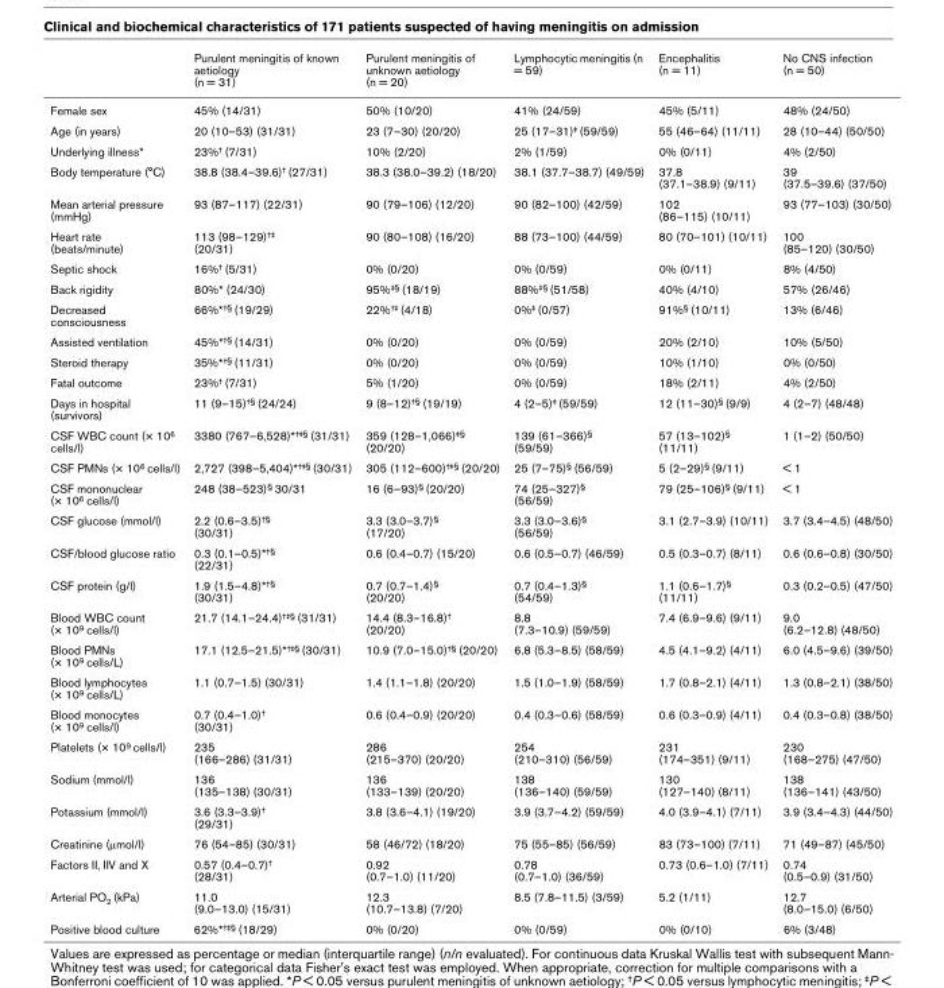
<table><thead><tr><td></td><td>Purulent meningitis of known aetiology (n = 31)</td><td>Purulent meningitis of unknown aetiology (n = 20)</td><td>Lymphocytic meningitis (n = 59)</td><td>Encephalitis (n = 11)</td><td>No CNS infection (n = 50)</td></tr></thead><tbody><tr><td>Female sex</td><td>45% (14/31)</td><td>50% (10/20)</td><td>41% (24/59)</td><td>45% (5/11)</td><td>48% (24/50)</td></tr><tr><td>Age (in years)</td><td>20 (10–53) (31/31)</td><td>23 (7–30) (20/20)</td><td>25 (17–31)<sup>‡</sup> (59/59)</td><td>55 (46–64) (11/11)</td><td>28 (10–44) (50/50)</td></tr><tr><td>Underlying illness*</td><td>23%<sup>†</sup> (7/31)</td><td>10% (2/20)</td><td>2% (1/59)</td><td>0% (0/11)</td><td>4% (2/50)</td></tr><tr><td>Body temperature (°C)</td><td>38.8 (38.4–39.6)<sup>†</sup> (27/31)</td><td>38.3 (38.0–39.2) (18/20)</td><td>38.1 (37.7–38.7) (49/59)</td><td>37.8 (37.1–38.9) (9/11)</td><td>39 (37.5–39.6) (37/50)</td></tr><tr><td>Mean arterial pressure (mmHg)</td><td>93 (87–117) (22/31)</td><td>90 (79–106) (12/20)</td><td>90 (82–100) (42/59)</td><td>102 (86–115) (10/11)</td><td>93 (77–103) (30/50)</td></tr><tr><td>Heart rate (beats/minute)</td><td>113 (98–129)<sup>†‡</sup> (20/31)</td><td>90 (80–108) (16/20)</td><td>88 (73–100) (44/59)</td><td>80 (70–101) (10/11)</td><td>100 (85–120) (30/50)</td></tr><tr><td>Septic shock</td><td>16%<sup>†</sup> (5/31)</td><td>0% (0/20)</td><td>0% (0/59)</td><td>0% (0/11)</td><td>8% (4/50)</td></tr><tr><td>Back rigidity</td><td>80%* (24/30)</td><td>95%<sup>‡§</sup> (18/19)</td><td>88%<sup>‡§</sup> (51/58)</td><td>40% (4/10)</td><td>57% (26/46)</td></tr><tr><td>Decreased consciousness</td><td>66%*<sup>†§</sup> (19/29)</td><td>22%<sup>†‡</sup> (4/18)</td><td>0%<sup>‡</sup> (0/57)</td><td>91%<sup>§</sup> (10/11)</td><td>13% (6/46)</td></tr><tr><td>Assisted ventilation</td><td>45%*<sup>†§</sup> (14/31)</td><td>0% (0/20)</td><td>0% (0/59)</td><td>20% (2/10)</td><td>10% (5/50)</td></tr><tr><td>Steroid therapy</td><td>35%*<sup>†§</sup> (11/31)</td><td>0% (0/20)</td><td>0% (0/59)</td><td>10% (1/10)</td><td>0% (0/50)</td></tr><tr><td>Fatal outcome</td><td>23%<sup>†</sup> (7/31)</td><td>5% (1/20)</td><td>0% (0/59)</td><td>18% (2/11)</td><td>4% (2/50)</td></tr><tr><td>Days in hospital (survivors)</td><td>11 (9–15)<sup>†§</sup> (24/24)</td><td>9 (8–12)<sup>†§</sup> (19/19)</td><td>4 (2–5)<sup>‡</sup> (59/59)</td><td>12 (11–30)<sup>§</sup> (9/9)</td><td>4 (2–7) (48/48)</td></tr><tr><td>CSF WBC count (× 10<sup>6</sup> cells/l)</td><td>3380 (767–6,528)*<sup>†‡§</sup> (31/31)</td><td>359 (128–1,066)<sup>‡§</sup> (20/20)</td><td>139 (61–366)<sup>§</sup> (59/59)</td><td>57 (13–102)<sup>§</sup> (11/11)</td><td>1 (1–2) (50/50)</td></tr><tr><td>CSF PMNs (× 10<sup>6</sup> cells/l)</td><td>2,727 (398–5,404)*<sup>†‡§</sup> (30/31)</td><td>305 (112–600)<sup>†‡§</sup> (20/20)</td><td>25 (7–75)<sup>§</sup> (56/59)</td><td>5 (2–29)<sup>§</sup> (9/11)</td><td>&lt; 1</td></tr><tr><td>CSF mononuclear (× 10<sup>6</sup> cells/l)</td><td>248 (38–523)<sup>§</sup> 30/31</td><td>16 (6–93)<sup>§</sup> (20/20)</td><td>74 (25–327)<sup>§</sup> (56/59)</td><td>79 (25–106)<sup>§</sup> (9/11)</td><td>&lt; 1</td></tr><tr><td>CSF glucose (mmol/l)</td><td>2.2 (0.6–3.5)<sup>†§</sup> (30/31)</td><td>3.3 (3.0–3.7)<sup>§</sup> (17/20)</td><td>3.3 (3.0–3.6)<sup>§</sup> (56/59)</td><td>3.1 (2.7–3.9) (10/11)</td><td>3.7 (3.4–4.5) (48/50)</td></tr><tr><td>CSF/blood glucose ratio</td><td>0.3 (0.1–0.5)*<sup>†§</sup> (22/31)</td><td>0.6 (0.4–0.7) (15/20)</td><td>0.6 (0.5–0.7) (46/59)</td><td>0.5 (0.3–0.7) (8/11)</td><td>0.6 (0.6–0.8) (30/50)</td></tr><tr><td>CSF protein (g/l)</td><td>1.9 (1.5–4.8)*<sup>†§</sup> (30/31)</td><td>0.7 (0.7–1.4)<sup>§</sup> (20/20)</td><td>0.7 (0.4–1.3)<sup>§</sup> (54/59)</td><td>1.1 (0.6–1.7)<sup>§</sup> (11/11)</td><td>0.3 (0.2–0.5) (47/50)</td></tr><tr><td>Blood WBC count (× 10<sup>9</sup> cells/l)</td><td>21.7 (14.1–24.4)<sup>†‡§</sup> (31/31)</td><td>14.4 (8.3–16.8)<sup>†</sup> (20/20)</td><td>8.8 (7.3–10.9) (59/59)</td><td>7.4 (6.9–9.6) (9/11)</td><td>9.0 (6.2–12.8) (48/50)</td></tr><tr><td>Blood PMNs (× 10<sup>9</sup> cells/L)</td><td>17.1 (12.5–21.5)*<sup>†‡§</sup> (30/31)</td><td>10.9 (7.0–15.0)<sup>†§</sup> (20/20)</td><td>6.8 (5.3–8.5) (58/59)</td><td>4.5 (4.1–9.2) (4/11)</td><td>6.0 (4.5–9.6) (39/50)</td></tr><tr><td>Blood lymphocytes (× 10<sup>9</sup> cells/L)</td><td>1.1 (0.7–1.5) (30/31)</td><td>1.4 (1.1–1.8) (20/20)</td><td>1.5 (1.0–1.9) (58/59)</td><td>1.7 (0.8–2.1) (4/11)</td><td>1.3 (0.8–2.1) (38/50)</td></tr><tr><td>Blood monocytes (× 10<sup>9</sup> cells/l)</td><td>0.7 (0.4–1.0)<sup>†</sup> (30/31)</td><td>0.6 (0.4–0.9) (20/20)</td><td>0.4 (0.3–0.6) (58/59)</td><td>0.6 (0.3–0.9) (4/11)</td><td>0.4 (0.3–0.8) (38/50)</td></tr><tr><td>Platelets (× 10<sup>9</sup> cells/l)</td><td>235 (166–286) (31/31)</td><td>286 (215–370) (20/20)</td><td>254 (210–310) (56/59)</td><td>231 (174–351) (9/11)</td><td>230 (168–275) (47/50)</td></tr><tr><td>Sodium (mmol/l)</td><td>136 (135–138) (30/31)</td><td>136 (133–139) (20/20)</td><td>138 (136–140) (59/59)</td><td>130 (127–140) (8/11)</td><td>138 (136–141) (43/50)</td></tr><tr><td>Potassium (mmol/l)</td><td>3.6 (3.3–3.9)<sup>†</sup> (29/31)</td><td>3.8 (3.6–4.1) (19/20)</td><td>3.9 (3.7–4.2) (59/59)</td><td>4.0 (3.9–4.1) (7/11)</td><td>3.9 (3.4–4.3) (44/50)</td></tr><tr><td>Creatinine (μmol/l)</td><td>76 (54–85) (30/31)</td><td>58 (46/72) (18/20)</td><td>75 (55–85) (56/59)</td><td>83 (73–100) (7/11)</td><td>71 (49–87) (45/50)</td></tr><tr><td>Factors II, IIV and X</td><td>0.57 (0.4–0.7)<sup>†</sup> (28/31)</td><td>0.92 (0.7–1.0) (11/20)</td><td>0.78 (0.7–1.0) (36/59)</td><td>0.73 (0.6–1.0) (7/11)</td><td>0.74 (0.5–0.9) (31/50)</td></tr><tr><td>Arterial PO<sub>2</sub> (kPa)</td><td>11.0 (9.0–13.0) (15/31)</td><td>12.3 (10.7–13.8) (7/20)</td><td>8.5 (7.8–11.5) (3/59)</td><td>5.2 (1/11)</td><td>12.7 (8.0–15.0) (6/50)</td></tr><tr><td>Positive blood culture</td><td>62%*<sup>†‡§</sup> (18/29)</td><td>0% (0/20)</td><td>0% (0/59)</td><td>0% (0/10)</td><td>6% (3/48)</td></tr></tbody></table>